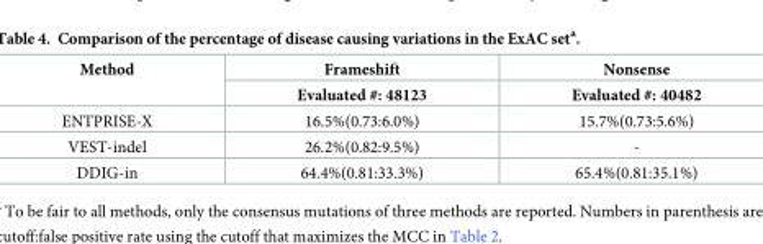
<table><thead><tr><td rowspan="2">Method</td><td rowspan="2">Frameshift Evaluated #: 48123</td><td rowspan="2">Nonsense Evaluated #: 40482</td></tr><tr></tr></thead><tbody><tr><td>ENTPRISE-X</td><td>16.5%(0.73:6.0%)</td><td>15.7%(0.73:5.6%)</td></tr><tr><td>VEST-indel</td><td>26.2%(0.82:9.5%)</td><td>-</td></tr><tr><td>DDIG-in</td><td>64.4%(0.81:33.3%)</td><td>65.4%(0.81:35.1%)</td></tr></tbody></table>